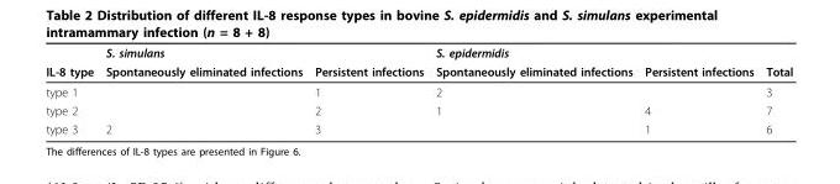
<table><thead><tr><td rowspan="2">IL-8 type</td><td colspan="2">S. simulans</td><td colspan="2">S. epidermidis</td><td rowspan="2">Total</td></tr><tr><td>Spontaneously eliminated infections</td><td>Persistent infections</td><td>Spontaneously eliminated infections</td><td>Persistent infections</td></tr></thead><tbody><tr><td>type 1</td><td></td><td>1</td><td>2</td><td></td><td>3</td></tr><tr><td>type 2</td><td></td><td>2</td><td>1</td><td>4</td><td>7</td></tr><tr><td>type 3</td><td>2</td><td>3</td><td></td><td>1</td><td>6</td></tr></tbody></table>